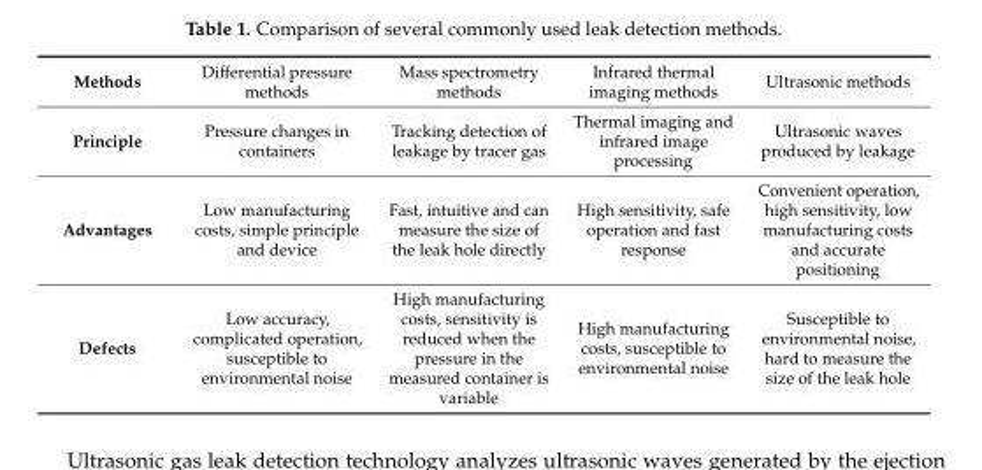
<table><tbody><tr><td>Methods</td><td>Differential pressure methods</td><td>Mass spectrometry methods</td><td>Infrared thermal imaging methods</td><td>Ultrasonic methods</td></tr><tr><td>Principle</td><td>Pressure changes in containers</td><td>Tracking detection of leakage by tracer gas</td><td>Thermal imaging and infrared image processing</td><td>Ultrasonic waves produced by leakage</td></tr><tr><td>Advantages</td><td>Low manufacturing costs, simple principle and device</td><td>Fast, intuitive and can measure the size of the leak hole directly</td><td>High sensitivity, safe operation and fast response</td><td>Convenient operation, high sensitivity, low manufacturing costs and accurate positioning</td></tr><tr><td>Defects</td><td>Low accuracy, complicated operation, susceptible to environmental noise</td><td>High manufacturing costs, sensitivity is reduced when the pressure in the measured container is variable</td><td>High manufacturing costs, susceptible to environmental noise</td><td>Susceptible to environmental noise, hard to measure the size of the leak hole</td></tr></tbody></table>